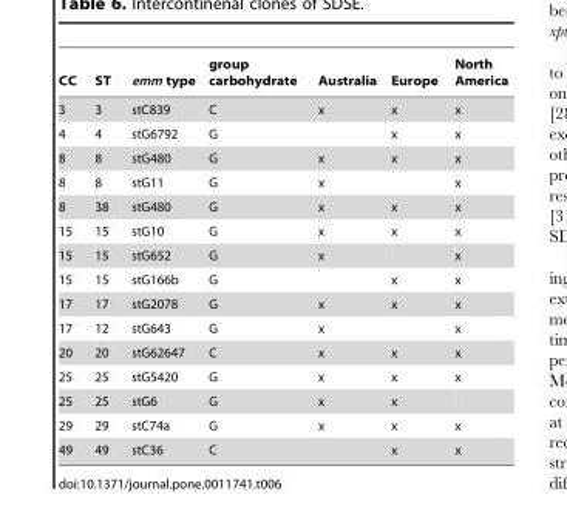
<table><thead><tr><td>CC</td><td>ST</td><td>emm type</td><td>group carbohydrate</td><td>Australia</td><td>Europe</td><td>North America</td></tr></thead><tbody><tr><td>3</td><td>3</td><td>stC839</td><td>C</td><td>x</td><td>x</td><td>x</td></tr><tr><td>4</td><td>4</td><td>stG6792</td><td>G</td><td></td><td>x</td><td>x</td></tr><tr><td>8</td><td>8</td><td>stG480</td><td>G</td><td>x</td><td>x</td><td>x</td></tr><tr><td>8</td><td>8</td><td>stG11</td><td>G</td><td>x</td><td></td><td>x</td></tr><tr><td>8</td><td>38</td><td>stG480</td><td>G</td><td>x</td><td>x</td><td>x</td></tr><tr><td>15</td><td>15</td><td>stG10</td><td>G</td><td>x</td><td>x</td><td>x</td></tr><tr><td>15</td><td>15</td><td>stG652</td><td>G</td><td>x</td><td></td><td>x</td></tr><tr><td>15</td><td>15</td><td>stG166b</td><td>G</td><td></td><td>x</td><td>x</td></tr><tr><td>17</td><td>17</td><td>stG2078</td><td>G</td><td>x</td><td>x</td><td>x</td></tr><tr><td>17</td><td>12</td><td>stG643</td><td>G</td><td>x</td><td></td><td>x</td></tr><tr><td>20</td><td>20</td><td>stG62647</td><td>C</td><td>x</td><td>x</td><td>x</td></tr><tr><td>25</td><td>25</td><td>stG5420</td><td>G</td><td>x</td><td>x</td><td>x</td></tr><tr><td>25</td><td>25</td><td>stG6</td><td>G</td><td>x</td><td>x</td><td></td></tr><tr><td>29</td><td>29</td><td>stC74a</td><td>G</td><td>x</td><td>x</td><td>x</td></tr><tr><td>49</td><td>49</td><td>stC36</td><td>C</td><td></td><td>x</td><td>x</td></tr></tbody></table>